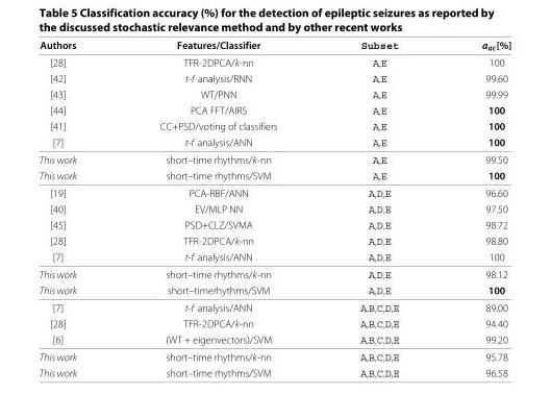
<table><thead><tr><td>Authors</td><td>Features/Classifier</td><td>Subset</td><td>a<sub>ac</sub>[%]</td></tr></thead><tbody><tr><td>[28]</td><td>TFR-2DPCA/k-nn</td><td>A,E</td><td>100</td></tr><tr><td>[42]</td><td>t-f analysis/RNN</td><td>A,E</td><td>99.60</td></tr><tr><td>[43]</td><td>WT/PNN</td><td>A,E</td><td>99.99</td></tr><tr><td>[44]</td><td>PCA FFT/AIRS</td><td>A,E</td><td>100</td></tr><tr><td>[41]</td><td>CC+PSD/voting of classifiers</td><td>A,E</td><td>100</td></tr><tr><td>[7]</td><td>t-f analysis/ANN</td><td>A,E</td><td>100</td></tr><tr><td>This work</td><td>short–time rhythms/k-nn</td><td>A,E</td><td>99.50</td></tr><tr><td>This work</td><td>short–time rhythms/SVM</td><td>A,E</td><td>100</td></tr><tr><td>[19]</td><td>PCA-RBF/ANN</td><td>A,D,E</td><td>96.60</td></tr><tr><td>[40]</td><td>EV/MLP NN</td><td>A,D,E</td><td>97.50</td></tr><tr><td>[45]</td><td>PSD+CLZ/SVMA</td><td>A,D,E</td><td>98.72</td></tr><tr><td>[28]</td><td>TFR-2DPCA/k-nn</td><td>A,D,E</td><td>98.80</td></tr><tr><td>[7]</td><td>t-f analysis/ANN</td><td>A,D,E</td><td>100</td></tr><tr><td>This work</td><td>short–time rhythms/k-nn</td><td>A,D,E</td><td>98.12</td></tr><tr><td>This work</td><td>short–timerhythms/SVM</td><td>A,D,E</td><td>100</td></tr><tr><td>[7]</td><td>t-f analysis/ANN</td><td>A,B,C,D,E</td><td>89.00</td></tr><tr><td>[28]</td><td>TFR-2DPCA/k-nn</td><td>A,B,C,D,E</td><td>94.40</td></tr><tr><td>[6]</td><td>(WT + eigenvectors)/SVM</td><td>A,B,C,D,E</td><td>99.20</td></tr><tr><td>This work</td><td>short–time rhythms/k-nn</td><td>A,B,C,D,E</td><td>95.78</td></tr><tr><td>This work</td><td>short–time rhythms/SVM</td><td>A,B,C,D,E</td><td>96.58</td></tr></tbody></table>